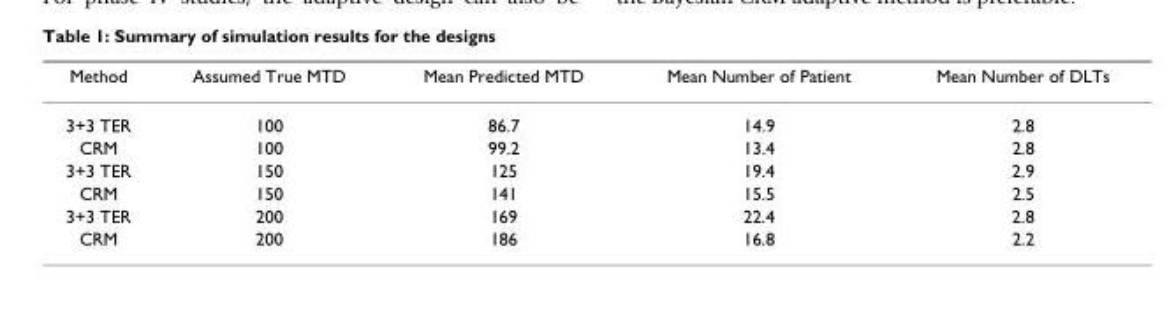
<table><thead><tr><td>Method</td><td>Assumed True MTD</td><td>Mean Predicted MTD</td><td>Mean Number of Patient</td><td>Mean Number of DLTs</td></tr></thead><tbody><tr><td>3+3 TER</td><td>100</td><td>86.7</td><td>14.9</td><td>2.8</td></tr><tr><td>CRM</td><td>100</td><td>99.2</td><td>13.4</td><td>2.8</td></tr><tr><td>3+3 TER</td><td>150</td><td>125</td><td>19.4</td><td>2.9</td></tr><tr><td>CRM</td><td>150</td><td>141</td><td>15.5</td><td>2.5</td></tr><tr><td>3+3 TER</td><td>200</td><td>169</td><td>22.4</td><td>2.8</td></tr><tr><td>CRM</td><td>200</td><td>186</td><td>16.8</td><td>2.2</td></tr></tbody></table>